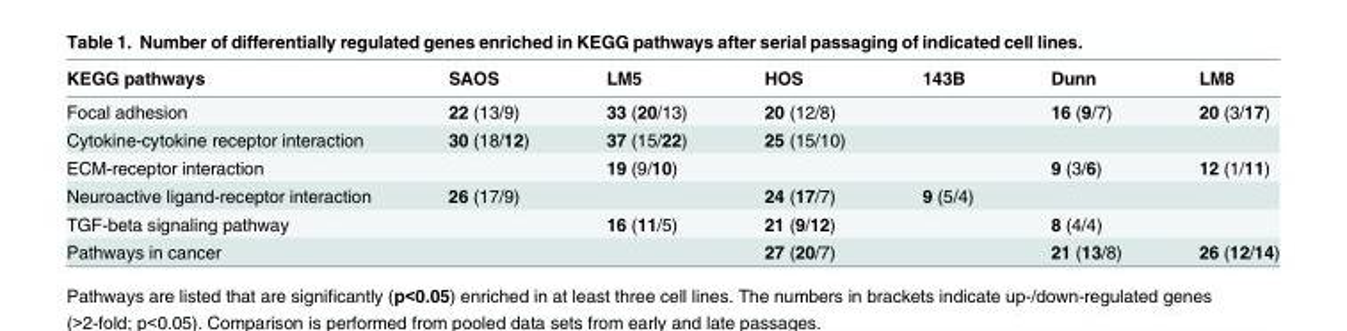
<table><thead><tr><td>KEGG pathways</td><td>SAOS</td><td>LM5</td><td>HOS</td><td>143B</td><td>Dunn</td><td>LM8</td></tr></thead><tbody><tr><td>Focal adhesion</td><td>22 (13/9)</td><td>33 (20/13)</td><td>20 (12/8)</td><td></td><td>16 (9/7)</td><td>20 (3/17)</td></tr><tr><td>Cytokine-cytokine receptor interaction</td><td>30 (18/12)</td><td>37 (15/22)</td><td>25 (15/10)</td><td></td><td></td><td></td></tr><tr><td>ECM-receptor interaction</td><td></td><td>19 (9/10)</td><td></td><td></td><td>9 (3/6)</td><td>12 (1/11)</td></tr><tr><td>Neuroactive ligand-receptor interaction</td><td>26 (17/9)</td><td></td><td>24 (17/7)</td><td>9 (5/4)</td><td></td><td></td></tr><tr><td>TGF-beta signaling pathway</td><td></td><td>16 (11/5)</td><td>21 (9/12)</td><td></td><td>8 (4/4)</td><td></td></tr><tr><td>Pathways in cancer</td><td></td><td></td><td>27 (20/7)</td><td></td><td>21 (13/8)</td><td>26 (12/14)</td></tr></tbody></table>